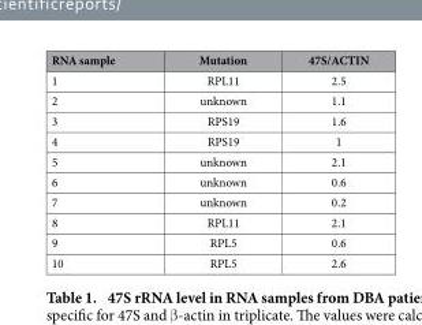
<table><thead><tr><td>RNA sample</td><td>Mutation</td><td>47S/ACTIN</td></tr></thead><tbody><tr><td>1</td><td>RPL11</td><td>2.5</td></tr><tr><td>2</td><td>unknown</td><td>1.1</td></tr><tr><td>3</td><td>RPS19</td><td>1.6</td></tr><tr><td>4</td><td>RPS19</td><td>1</td></tr><tr><td>5</td><td>unknown</td><td>2.1</td></tr><tr><td>6</td><td>unknown</td><td>0.6</td></tr><tr><td>7</td><td>unknown</td><td>0.2</td></tr><tr><td>8</td><td>RPL11</td><td>2.1</td></tr><tr><td>9</td><td>RPL5</td><td>0.6</td></tr><tr><td>10</td><td>RPL5</td><td>2.6</td></tr></tbody></table>